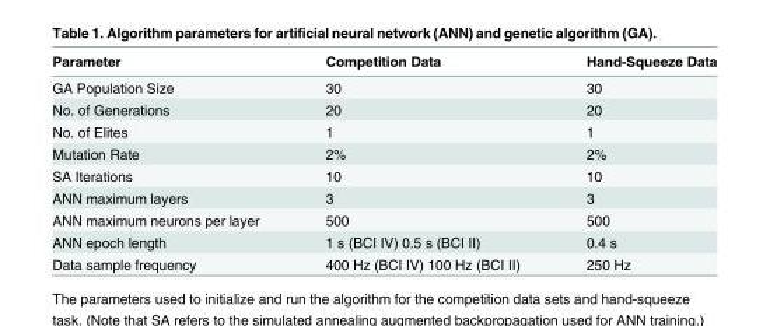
<table><thead><tr><td>Parameter</td><td>Competition Data</td><td>Hand-Squeeze Data</td></tr></thead><tbody><tr><td>GA Population Size</td><td>30</td><td>30</td></tr><tr><td>No. of Generations</td><td>20</td><td>20</td></tr><tr><td>No. of Elites</td><td>1</td><td>1</td></tr><tr><td>Mutation Rate</td><td>2%</td><td>2%</td></tr><tr><td>SA Iterations</td><td>10</td><td>10</td></tr><tr><td>ANN maximum layers</td><td>3</td><td>3</td></tr><tr><td>ANN maximum neurons per layer</td><td>500</td><td>500</td></tr><tr><td>ANN epoch length</td><td>1 s (BCI IV) 0.5 s (BCI II)</td><td>0.4 s</td></tr><tr><td>Data sample frequency</td><td>400 Hz (BCI IV) 100 Hz (BCI II)</td><td>250 Hz</td></tr></tbody></table>